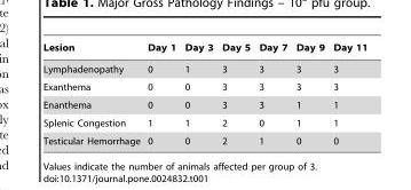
<table><thead><tr><td>Lesion</td><td>Day 1</td><td>Day 3</td><td>Day 5</td><td>Day 7</td><td>Day 9</td><td>Day 11</td></tr></thead><tbody><tr><td>Lymphadenopathy</td><td>0</td><td>1</td><td>3</td><td>3</td><td>3</td><td>3</td></tr><tr><td>Exanthema</td><td>0</td><td>0</td><td>3</td><td>3</td><td>3</td><td>3</td></tr><tr><td>Enanthema</td><td>0</td><td>0</td><td>3</td><td>3</td><td>1</td><td>1</td></tr><tr><td>Splenic Congestion</td><td>1</td><td>1</td><td>2</td><td>0</td><td>1</td><td>1</td></tr><tr><td>Testicular Hemorrhage</td><td>0</td><td>0</td><td>2</td><td>1</td><td>0</td><td>0</td></tr></tbody></table>